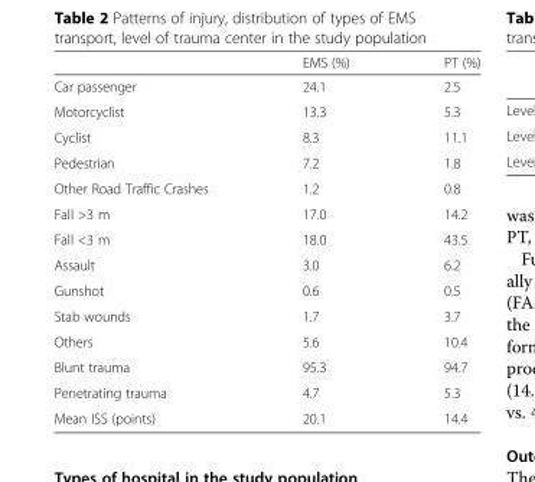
<table><thead><tr><td></td><td>EMS (%)</td><td>PT (%)</td></tr></thead><tbody><tr><td>Car passenger</td><td>24.1</td><td>2.5</td></tr><tr><td>Motorcyclist</td><td>13.3</td><td>5.3</td></tr><tr><td>Cyclist</td><td>8.3</td><td>11.1</td></tr><tr><td>Pedestrian</td><td>7.2</td><td>1.8</td></tr><tr><td>Other Road Traffic Crashes</td><td>1.2</td><td>0.8</td></tr><tr><td>Fall &gt;3 m</td><td>17.0</td><td>14.2</td></tr><tr><td>Fall &lt;3 m</td><td>18.0</td><td>43.5</td></tr><tr><td>Assault</td><td>3.0</td><td>6.2</td></tr><tr><td>Gunshot</td><td>0.6</td><td>0.5</td></tr><tr><td>Stab wounds</td><td>1.7</td><td>3.7</td></tr><tr><td>Others</td><td>5.6</td><td>10.4</td></tr><tr><td>Blunt trauma</td><td>95.3</td><td>94.7</td></tr><tr><td>Penetrating trauma</td><td>4.7</td><td>5.3</td></tr><tr><td>Mean ISS (points)</td><td>20.1</td><td>14.4</td></tr></tbody></table>